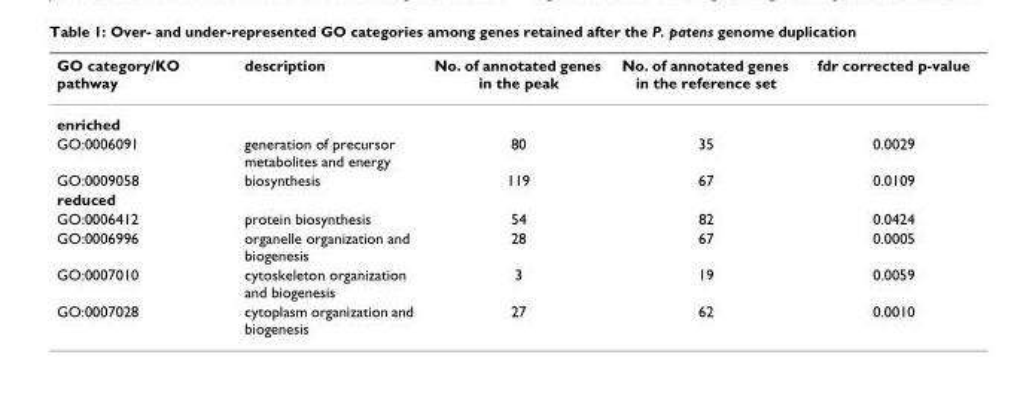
<table><thead><tr><td>GO category/KO pathway</td><td>description</td><td>No. of annotated genes in the peak</td><td>No. of annotated genes in the reference set</td><td>fdr corrected p-value</td></tr></thead><tbody><tr><td colspan="5">enriched</td></tr><tr><td>GO:0006091</td><td>generation of precursor metabolites and energy</td><td>80</td><td>35</td><td>0.0029</td></tr><tr><td>GO:0009058</td><td>biosynthesis</td><td>119</td><td>67</td><td>0.0109</td></tr><tr><td colspan="5">reduced</td></tr><tr><td>GO:0006412</td><td>protein biosynthesis</td><td>54</td><td>82</td><td>0.0424</td></tr><tr><td>GO:0006996</td><td>organelle organization and biogenesis</td><td>28</td><td>67</td><td>0.0005</td></tr><tr><td>GO:0007010</td><td>cytoskeleton organization and biogenesis</td><td>3</td><td>19</td><td>0.0059</td></tr><tr><td>GO:0007028</td><td>cytoplasm organization and biogenesis</td><td>27</td><td>62</td><td>0.0010</td></tr></tbody></table>